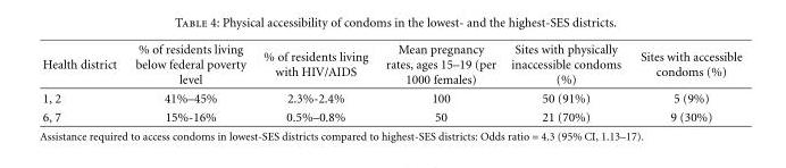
<table><thead><tr><td>Health district</td><td>% of residents living below federal poverty level</td><td>% of residents living with HIV/AIDS</td><td>Mean pregnancy rates, ages 15–19 (per 1000 females)</td><td>Sites with physically inaccessible condoms (%)</td><td>Sites with accessible condoms (%)</td></tr></thead><tbody><tr><td>1, 2</td><td>41%–45%</td><td>2.3%-2.4%</td><td>100</td><td>50 (91%)</td><td>5 (9%)</td></tr><tr><td>6, 7</td><td>15%-16%</td><td>0.5%–0.8%</td><td>50</td><td>21 (70%)</td><td>9 (30%)</td></tr></tbody></table>